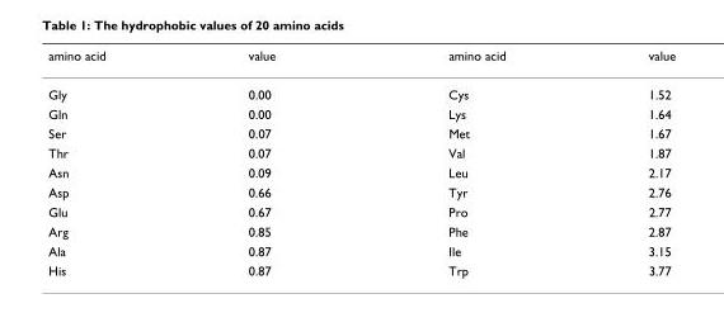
<table><thead><tr><td>amino acid</td><td>value</td><td>amino acid</td><td>value</td></tr></thead><tbody><tr><td>Gly</td><td>0.00</td><td>Cys</td><td>1.52</td></tr><tr><td>Gln</td><td>0.00</td><td>Lys</td><td>1.64</td></tr><tr><td>Ser</td><td>0.07</td><td>Met</td><td>1.67</td></tr><tr><td>Thr</td><td>0.07</td><td>Val</td><td>1.87</td></tr><tr><td>Asn</td><td>0.09</td><td>Leu</td><td>2.17</td></tr><tr><td>Asp</td><td>0.66</td><td>Tyr</td><td>2.76</td></tr><tr><td>Glu</td><td>0.67</td><td>Pro</td><td>2.77</td></tr><tr><td>Arg</td><td>0.85</td><td>Phe</td><td>2.87</td></tr><tr><td>Ala</td><td>0.87</td><td>Ile</td><td>3.15</td></tr><tr><td>His</td><td>0.87</td><td>Trp</td><td>3.77</td></tr></tbody></table>